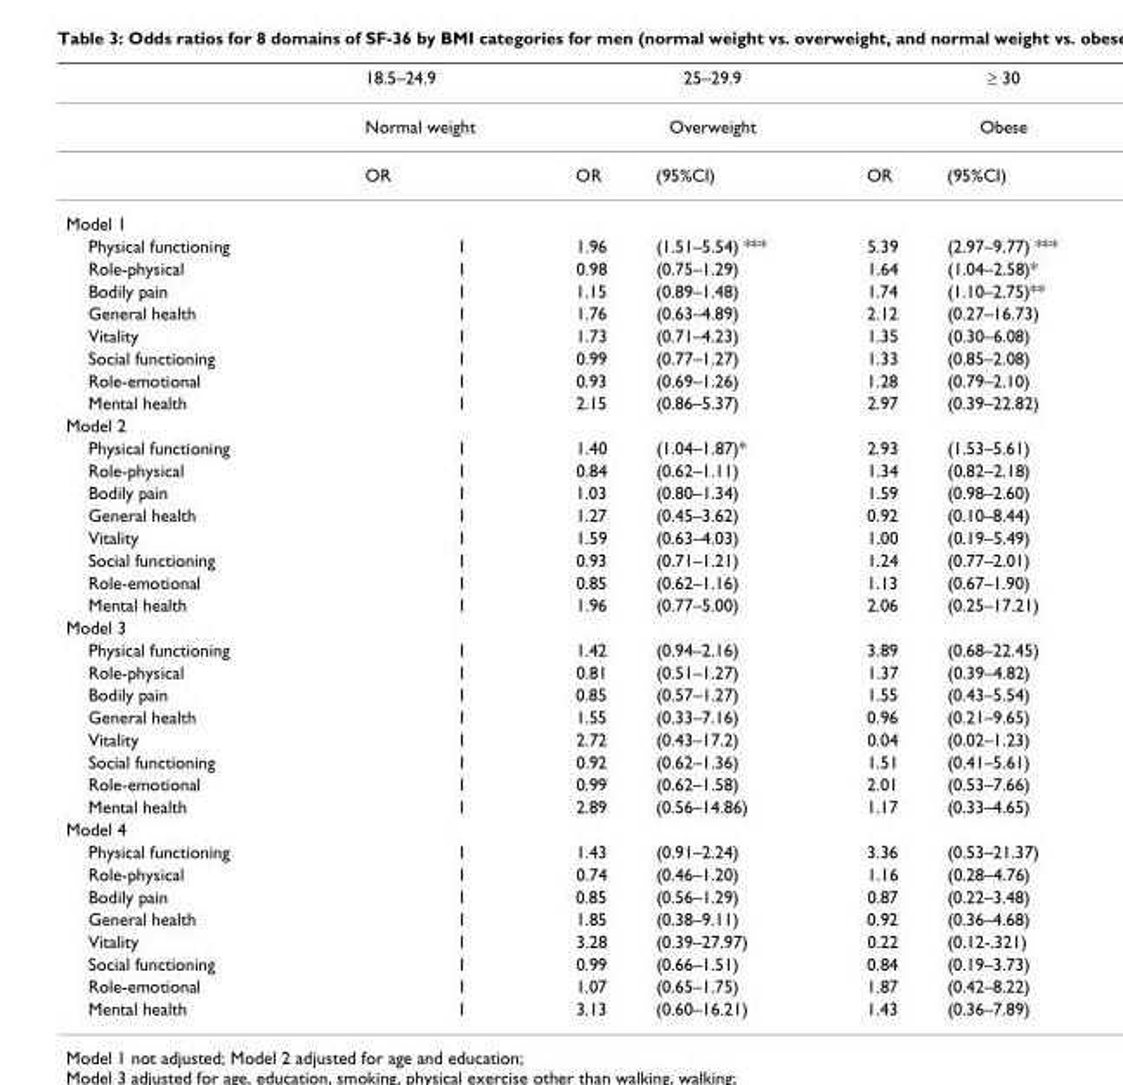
<table><thead><tr><td rowspan="3"></td><td rowspan="3">18.5–24.9 Normal weight OR</td><td rowspan="2" colspan="2">25–29.9 Overweight</td><td rowspan="2" colspan="2">≥ 30 Obese</td></tr><tr></tr><tr><td>OR</td><td>(95%CI)</td><td>OR</td><td>(95%CI)</td></tr></thead><tbody><tr><td colspan="6">Model 1</td></tr><tr><td>Physical functioning</td><td>1</td><td>1.96</td><td>(1.51–5.54) ***</td><td>5.39</td><td>(2.97–9.77) ***</td></tr><tr><td>Role-physical</td><td>1</td><td>0.98</td><td>(0.75–1.29)</td><td>1.64</td><td>(1.04–2.58)*</td></tr><tr><td>Bodily pain</td><td>1</td><td>1.15</td><td>(0.89–1.48)</td><td>1.74</td><td>(1.10–2.75)**</td></tr><tr><td>General health</td><td>1</td><td>1.76</td><td>(0.63–4.89)</td><td>2.12</td><td>(0.27–16.73)</td></tr><tr><td>Vitality</td><td>1</td><td>1.73</td><td>(0.71–4.23)</td><td>1.35</td><td>(0.30–6.08)</td></tr><tr><td>Social functioning</td><td>1</td><td>0.99</td><td>(0.77–1.27)</td><td>1.33</td><td>(0.85–2.08)</td></tr><tr><td>Role-emotional</td><td>1</td><td>0.93</td><td>(0.69–1.26)</td><td>1.28</td><td>(0.79–2.10)</td></tr><tr><td>Mental health</td><td>1</td><td>2.15</td><td>(0.86–5.37)</td><td>2.97</td><td>(0.39–22.82)</td></tr><tr><td colspan="6">Model 2</td></tr><tr><td>Physical functioning</td><td>1</td><td>1.40</td><td>(1.04–1.87)*</td><td>2.93</td><td>(1.53–5.61)</td></tr><tr><td>Role-physical</td><td>1</td><td>0.84</td><td>(0.62–1.11)</td><td>1.34</td><td>(0.82–2.18)</td></tr><tr><td>Bodily pain</td><td>1</td><td>1.03</td><td>(0.80–1.34)</td><td>1.59</td><td>(0.98–2.60)</td></tr><tr><td>General health</td><td>1</td><td>1.27</td><td>(0.45–3.62)</td><td>0.92</td><td>(0.10–8.44)</td></tr><tr><td>Vitality</td><td>1</td><td>1.59</td><td>(0.63–4.03)</td><td>1.00</td><td>(0.19–5.49)</td></tr><tr><td>Social functioning</td><td>1</td><td>0.93</td><td>(0.71–1.21)</td><td>1.24</td><td>(0.77–2.01)</td></tr><tr><td>Role-emotional</td><td>1</td><td>0.85</td><td>(0.62–1.16)</td><td>1.13</td><td>(0.67–1.90)</td></tr><tr><td>Mental health</td><td>1</td><td>1.96</td><td>(0.77–5.00)</td><td>2.06</td><td>(0.25–17.21)</td></tr><tr><td colspan="6">Model 3</td></tr><tr><td>Physical functioning</td><td>1</td><td>1.42</td><td>(0.94–2.16)</td><td>3.89</td><td>(0.68–22.45)</td></tr><tr><td>Role-physical</td><td>1</td><td>0.81</td><td>(0.51–1.27)</td><td>1.37</td><td>(0.39–4.82)</td></tr><tr><td>Bodily pain</td><td>1</td><td>0.85</td><td>(0.57–1.27)</td><td>1.55</td><td>(0.43–5.54)</td></tr><tr><td>General health</td><td>1</td><td>1.55</td><td>(0.33–7.16)</td><td>0.96</td><td>(0.21–9.65)</td></tr><tr><td>Vitality</td><td>1</td><td>2.72</td><td>(0.43–17.2)</td><td>0.04</td><td>(0.02–1.23)</td></tr><tr><td>Social functioning</td><td>1</td><td>0.92</td><td>(0.62–1.36)</td><td>1.51</td><td>(0.41–5.61)</td></tr><tr><td>Role-emotional</td><td>1</td><td>0.99</td><td>(0.62–1.58)</td><td>2.01</td><td>(0.53–7.66)</td></tr><tr><td>Mental health</td><td>1</td><td>2.89</td><td>(0.56–14.86)</td><td>1.17</td><td>(0.33–4.65)</td></tr><tr><td colspan="6">Model 4</td></tr><tr><td>Physical functioning</td><td>1</td><td>1.43</td><td>(0.91–2.24)</td><td>3.36</td><td>(0.53–21.37)</td></tr><tr><td>Role-physical</td><td>1</td><td>0.74</td><td>(0.46–1.20)</td><td>1.16</td><td>(0.28–4.76)</td></tr><tr><td>Bodily pain</td><td>1</td><td>0.85</td><td>(0.56–1.29)</td><td>0.87</td><td>(0.22–3.48)</td></tr><tr><td>General health</td><td>1</td><td>1.85</td><td>(0.38–9.11)</td><td>0.92</td><td>(0.36–4.68)</td></tr><tr><td>Vitality</td><td>1</td><td>3.28</td><td>(0.39–27.97)</td><td>0.22</td><td>(0.12-.321)</td></tr><tr><td>Social functioning</td><td>1</td><td>0.99</td><td>(0.66–1.51)</td><td>0.84</td><td>(0.19–3.73)</td></tr><tr><td>Role-emotional</td><td>1</td><td>1.07</td><td>(0.65–1.75)</td><td>1.87</td><td>(0.42–8.22)</td></tr><tr><td>Mental health</td><td>1</td><td>3.13</td><td>(0.60–16.21)</td><td>1.43</td><td>(0.36–7.89)</td></tr></tbody></table>